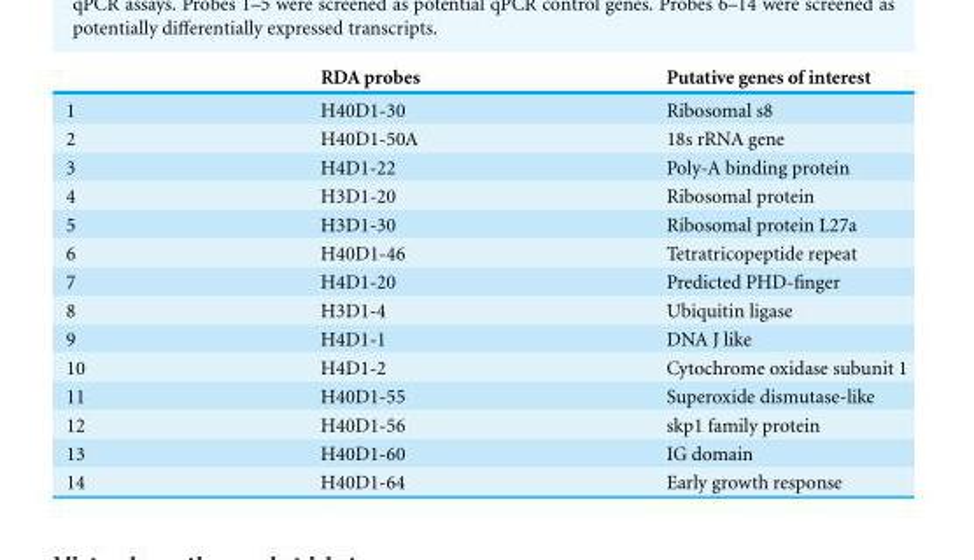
<table><thead><tr><td></td><td>RDA probes</td><td>Putative genes of interest</td></tr></thead><tbody><tr><td>1</td><td>H40D1-30</td><td>Ribosomal s8</td></tr><tr><td>2</td><td>H40D1-50A</td><td>18s rRNA gene</td></tr><tr><td>3</td><td>H4D1-22</td><td>Poly-A binding protein</td></tr><tr><td>4</td><td>H3D1-20</td><td>Ribosomal protein</td></tr><tr><td>5</td><td>H3D1-30</td><td>Ribosomal protein L27a</td></tr><tr><td>6</td><td>H40D1-46</td><td>Tetratricopeptide repeat</td></tr><tr><td>7</td><td>H4D1-20</td><td>Predicted PHD-finger</td></tr><tr><td>8</td><td>H3D1-4</td><td>Ubiquitin ligase</td></tr><tr><td>9</td><td>H4D1-1</td><td>DNA J like</td></tr><tr><td>10</td><td>H4D1-2</td><td>Cytochrome oxidase subunit 1</td></tr><tr><td>11</td><td>H40D1-55</td><td>Superoxide dismutase-like</td></tr><tr><td>12</td><td>H40D1-56</td><td>skp1 family protein</td></tr><tr><td>13</td><td>H40D1-60</td><td>IG domain</td></tr><tr><td>14</td><td>H40D1-64</td><td>Early growth response</td></tr></tbody></table>